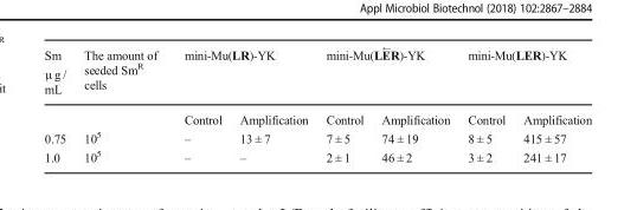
<table><thead><tr><td rowspan="2">Sm μ g / mL</td><td rowspan="2">The amount of seeded Sm<sup>R</sup> cells</td><td colspan="2">mini-Mu(LR)-YK</td><td colspan="2">mini-Mu(L ←ER)-YK</td><td colspan="2">mini-Mu(LER)-YK</td></tr><tr><td>Control</td><td>Amplification</td><td>Control</td><td>Amplification</td><td>Control</td><td>Amplification</td></tr></thead><tbody><tr><td>0.75</td><td>10<sup>5</sup></td><td>–</td><td>13 ± 7</td><td>7 ± 5</td><td>74 ± 19</td><td>8 ± 5</td><td>415 ± 57</td></tr><tr><td>1.0</td><td>10<sup>5</sup></td><td>–</td><td>–</td><td>2 ± 1</td><td>46 ± 2</td><td>3 ± 2</td><td>241 ± 17</td></tr></tbody></table>